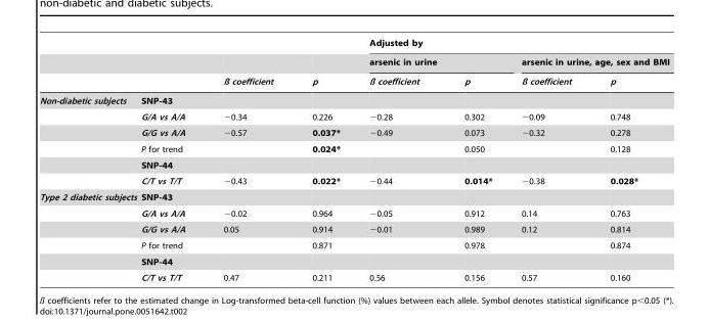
<table><thead><tr><td rowspan="3"></td><td rowspan="3"></td><td rowspan="3">ß coefficient</td><td rowspan="3">p</td><td colspan="4">Adjusted by</td></tr><tr><td colspan="2">arsenic in urine</td><td colspan="2">arsenic in urine, age, sex and BMI</td></tr><tr><td>ß coefficient</td><td>p</td><td>ß coefficient</td><td>p</td></tr></thead><tbody><tr><td rowspan="6">Non-diabetic subjects</td><td>SNP-43</td><td></td><td></td><td></td><td></td><td></td><td></td></tr><tr><td>G/A vs A/A</td><td>−0.34</td><td>0.226</td><td>−0.28</td><td>0.302</td><td>−0.09</td><td>0.748</td></tr><tr><td>G/G vs A/A</td><td>−0.57</td><td>0.037*</td><td>−0.49</td><td>0.073</td><td>−0.32</td><td>0.278</td></tr><tr><td>P for trend</td><td></td><td>0.024*</td><td></td><td>0.050</td><td></td><td>0.128</td></tr><tr><td>SNP-44</td><td></td><td></td><td></td><td></td><td></td><td></td></tr><tr><td>C/T vs T/T</td><td>−0.43</td><td>0.022*</td><td>−0.44</td><td>0.014*</td><td>−0.38</td><td>0.028*</td></tr><tr><td rowspan="6">Type 2 diabetic subjects</td><td>SNP-43</td><td></td><td></td><td></td><td></td><td></td><td></td></tr><tr><td>G/A vs A/A</td><td>−0.02</td><td>0.964</td><td>−0.05</td><td>0.912</td><td>0.14</td><td>0.763</td></tr><tr><td>G/G vs A/A</td><td>0.05</td><td>0.914</td><td>−0.01</td><td>0.989</td><td>0.12</td><td>0.814</td></tr><tr><td>P for trend</td><td></td><td>0.871</td><td></td><td>0.978</td><td></td><td>0.874</td></tr><tr><td>SNP-44</td><td></td><td></td><td></td><td></td><td></td><td></td></tr><tr><td>C/T vs T/T</td><td>0.47</td><td>0.211</td><td>0.56</td><td>0.156</td><td>0.57</td><td>0.160</td></tr></tbody></table>